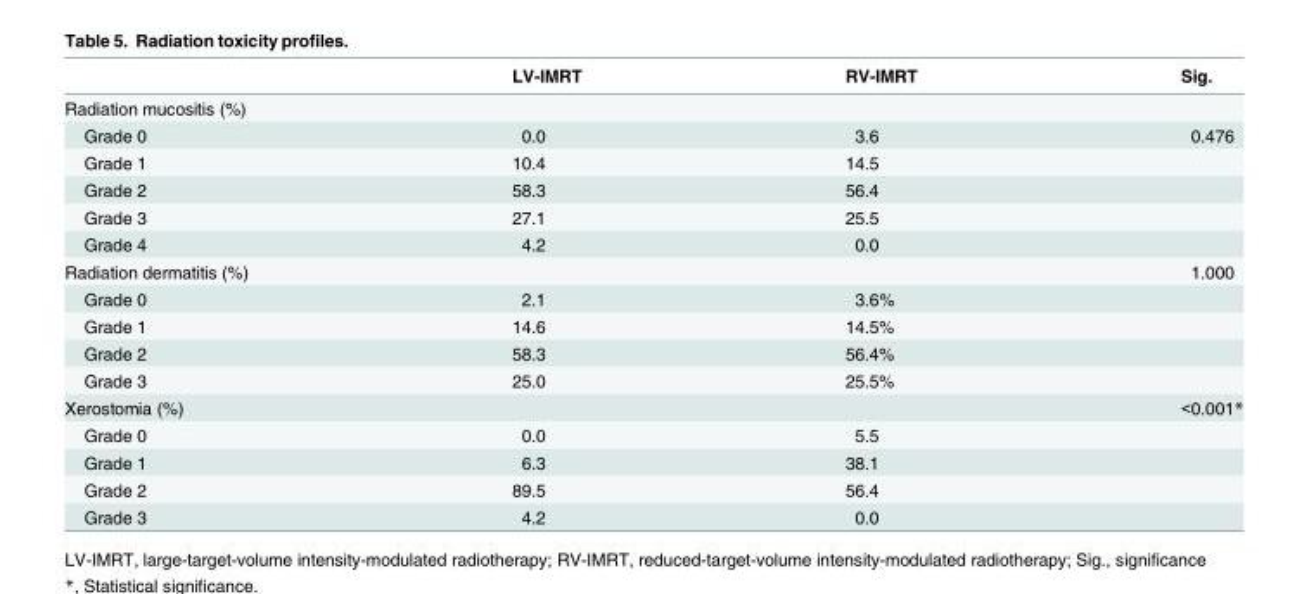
<table><thead><tr><td></td><td>LV-IMRT</td><td>RV-IMRT</td><td>Sig.</td></tr></thead><tbody><tr><td colspan="4">Radiation mucositis (%)</td></tr><tr><td>Grade 0</td><td>0.0</td><td>3.6</td><td>0.476</td></tr><tr><td>Grade 1</td><td>10.4</td><td>14.5</td><td></td></tr><tr><td>Grade 2</td><td>58.3</td><td>56.4</td><td></td></tr><tr><td>Grade 3</td><td>27.1</td><td>25.5</td><td></td></tr><tr><td>Grade 4</td><td>4.2</td><td>0.0</td><td></td></tr><tr><td>Radiation dermatitis (%)</td><td></td><td></td><td>1.000</td></tr><tr><td>Grade 0</td><td>2.1</td><td>3.6%</td><td></td></tr><tr><td>Grade 1</td><td>14.6</td><td>14.5%</td><td></td></tr><tr><td>Grade 2</td><td>58.3</td><td>56.4%</td><td></td></tr><tr><td>Grade 3</td><td>25.0</td><td>25.5%</td><td></td></tr><tr><td>Xerostomia (%)</td><td></td><td></td><td>&lt;0.001*</td></tr><tr><td>Grade 0</td><td>0.0</td><td>5.5</td><td></td></tr><tr><td>Grade 1</td><td>6.3</td><td>38.1</td><td></td></tr><tr><td>Grade 2</td><td>89.5</td><td>56.4</td><td></td></tr><tr><td>Grade 3</td><td>4.2</td><td>0.0</td><td></td></tr></tbody></table>